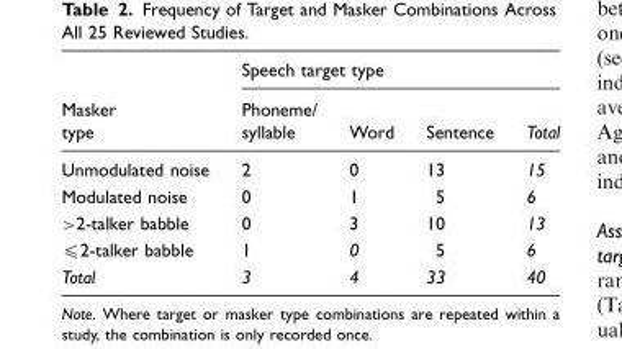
<table><thead><tr><td rowspan="2">Masker type</td><td colspan="4">Speech target type</td></tr><tr><td>Phoneme/ syllable</td><td>Word</td><td>Sentence</td><td>Total</td></tr></thead><tbody><tr><td>Unmodulated noise</td><td>2</td><td>0</td><td>13</td><td>15</td></tr><tr><td>Modulated noise</td><td>0</td><td>1</td><td>5</td><td>6</td></tr><tr><td>&gt;2-talker babble</td><td>0</td><td>3</td><td>10</td><td>13</td></tr><tr><td>≤2-talker babble</td><td>1</td><td>0</td><td>5</td><td>6</td></tr><tr><td>Total</td><td>3</td><td>4</td><td>33</td><td>40</td></tr></tbody></table>